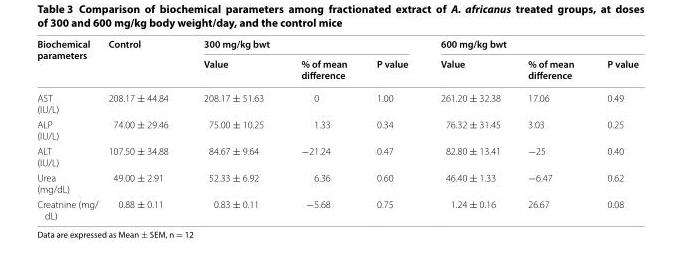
<table><thead><tr><td rowspan="2">Biochemical parameters</td><td rowspan="2">Control</td><td colspan="3">300 mg/kg bwt</td><td colspan="3">600 mg/kg bwt</td></tr><tr><td>Value</td><td>% of mean difference</td><td>P value</td><td>Value</td><td>% of mean difference</td><td>P value</td></tr></thead><tbody><tr><td>AST (IU/L)</td><td>208.17 ± 44.84</td><td>208.17 ± 51.63</td><td>0</td><td>1.00</td><td>261.20 ± 32.38</td><td>17.06</td><td>0.49</td></tr><tr><td>ALP (IU/L)</td><td>74.00 ± 29.46</td><td>75.00 ± 10.25</td><td>1.33</td><td>0.34</td><td>76.32 ± 31.45</td><td>3.03</td><td>0.25</td></tr><tr><td>ALT (IU/L)</td><td>107.50 ± 34.88</td><td>84.67 ± 9.64</td><td>−21.24</td><td>0.47</td><td>82.80 ± 13.41</td><td>−25</td><td>0.40</td></tr><tr><td>Urea (mg/dL)</td><td>49.00 ± 2.91</td><td>52.33 ± 6.92</td><td>6.36</td><td>0.60</td><td>46.40 ± 1.33</td><td>−6.47</td><td>0.62</td></tr><tr><td>Creatnine (mg/ dL)</td><td>0.88 ± 0.11</td><td>0.83 ± 0.11</td><td>−5.68</td><td>0.75</td><td>1.24 ± 0.16</td><td>26.67</td><td>0.08</td></tr></tbody></table>